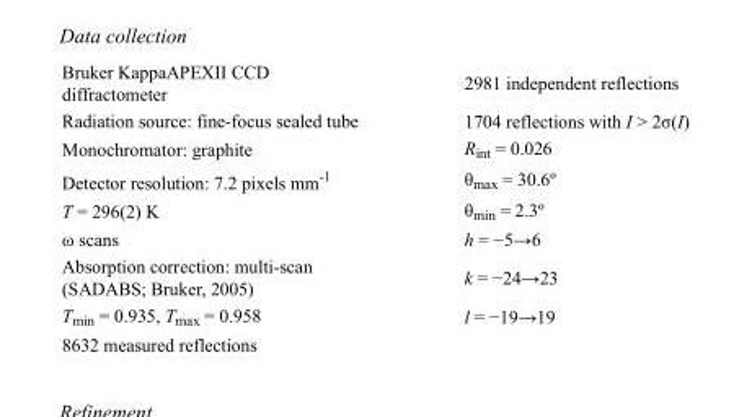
<table><tbody><tr><td>Bruker KappaAPEXII CCD diffractometer</td><td>2981 independent reflections</td></tr><tr><td>Radiation source: fine-focus sealed tube</td><td>1704 reflections with I &gt; 2σ(I)</td></tr><tr><td>Monochromator: graphite</td><td>R<sub>int</sub> = 0.026</td></tr><tr><td>Detector resolution: 7.2 pixels mm<sup>-1</sup></td><td>θ<sub>max</sub> = 30.6º</td></tr><tr><td>T = 296(2) K</td><td>θ<sub>min</sub> = 2.3º</td></tr><tr><td>ω scans</td><td>h = −5→6</td></tr><tr><td>Absorption correction: multi-scan (SADABS; Bruker, 2005)</td><td>k = −24→23</td></tr><tr><td>T<sub>min</sub> = 0.935, T<sub>max</sub> = 0.958</td><td>l = −19→19</td></tr><tr><td>8632 measured reflections</td><td></td></tr></tbody></table>